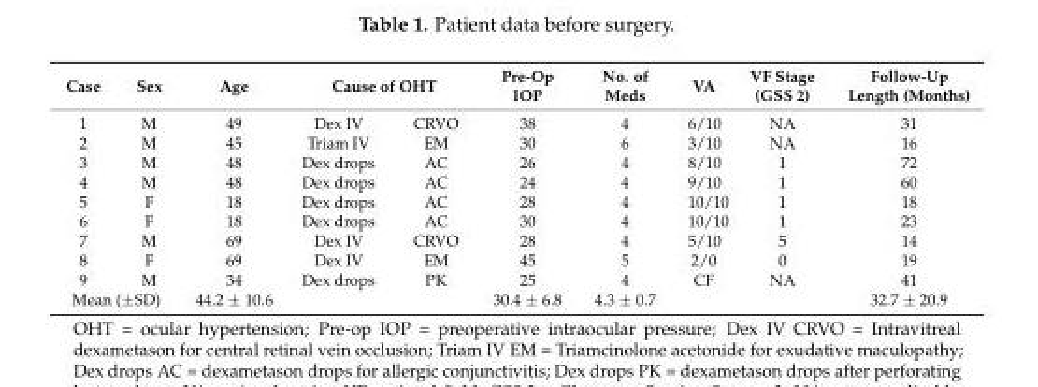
<table><thead><tr><td rowspan="2">Case 1</td><td rowspan="2">Sex M</td><td rowspan="2">Age 49</td><td colspan="2">Cause of OHT</td><td rowspan="2">Pre-Op IOP 38</td><td rowspan="2">No. of Meds 4</td><td rowspan="2">VA 6/10</td><td rowspan="2">VF Stage (GSS 2) NA</td><td rowspan="2">Follow-Up Length (Months) 31</td></tr><tr><td>Dex IV</td><td>CRVO</td></tr></thead><tbody><tr><td>2</td><td>M</td><td>45</td><td>Triam IV</td><td>EM</td><td>30</td><td>6</td><td>3/10</td><td>NA</td><td>16</td></tr><tr><td>3</td><td>M</td><td>48</td><td>Dex drops</td><td>AC</td><td>26</td><td>4</td><td>8/10</td><td>1</td><td>72</td></tr><tr><td>4</td><td>M</td><td>48</td><td>Dex drops</td><td>AC</td><td>24</td><td>4</td><td>9/10</td><td>1</td><td>60</td></tr><tr><td>5</td><td>F</td><td>18</td><td>Dex drops</td><td>AC</td><td>28</td><td>4</td><td>10/10</td><td>1</td><td>18</td></tr><tr><td>6</td><td>F</td><td>18</td><td>Dex drops</td><td>AC</td><td>30</td><td>4</td><td>10/10</td><td>1</td><td>23</td></tr><tr><td>7</td><td>M</td><td>69</td><td>Dex IV</td><td>CRVO</td><td>28</td><td>4</td><td>5/10</td><td>5</td><td>14</td></tr><tr><td>8</td><td>F</td><td>69</td><td>Dex IV</td><td>EM</td><td>45</td><td>5</td><td>2/0</td><td>0</td><td>19</td></tr><tr><td>9</td><td>M</td><td>34</td><td>Dex drops</td><td>PK</td><td>25</td><td>4</td><td>CF</td><td>NA</td><td>41</td></tr><tr><td colspan="2">Mean (±SD)</td><td>44.2 ± 10.6</td><td colspan="2"></td><td>30.4 ± 6.8</td><td>4.3 ± 0.7</td><td></td><td></td><td>32.7 ± 20.9</td></tr></tbody></table>